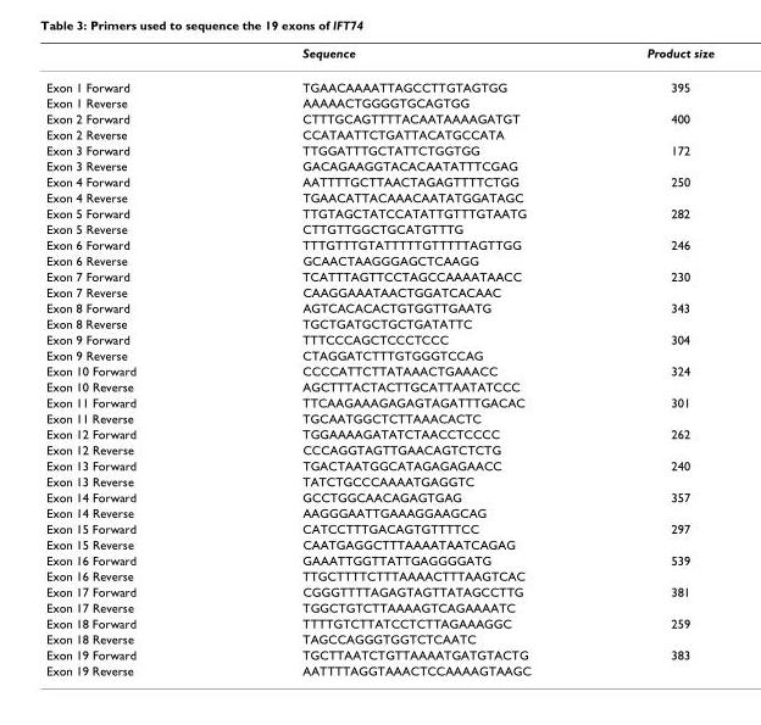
<table><thead><tr><td></td><td>Sequence</td><td>Product size</td></tr></thead><tbody><tr><td>Exon 1 Forward</td><td>TGAACAAAATTAGCCTTGTAGTGG</td><td>395</td></tr><tr><td>Exon 1 Reverse</td><td>AAAAACTGGGGTGCAGTGG</td><td></td></tr><tr><td>Exon 2 Forward</td><td>CTTTGCAGTTTTACAATAAAAGATGT</td><td>400</td></tr><tr><td>Exon 2 Reverse</td><td>CCATAATTCTGATTACATGCCATA</td><td></td></tr><tr><td>Exon 3 Forward</td><td>TTGGATTTGCTATTCTGGTGG</td><td>172</td></tr><tr><td>Exon 3 Reverse</td><td>GACAGAAGGTACACAATATTTCGAG</td><td></td></tr><tr><td>Exon 4 Forward</td><td>AATTTTGCTTAACTAGAGTTTTCTGG</td><td>250</td></tr><tr><td>Exon 4 Reverse</td><td>TGAACATTACAAACAATATGGATAGC</td><td></td></tr><tr><td>Exon 5 Forward</td><td>TTGTAGCTATCCATATTGTTTGTAATG</td><td>282</td></tr><tr><td>Exon 5 Reverse</td><td>CTTGTTGGCTGCATGTTTG</td><td></td></tr><tr><td>Exon 6 Forward</td><td>TTTGTTTGTATTTTTGTTTTTAGTTGG</td><td>246</td></tr><tr><td>Exon 6 Reverse</td><td>GCAACTAAGGGAGCTCAAGG</td><td></td></tr><tr><td>Exon 7 Forward</td><td>TCATTTAGTTCCTAGCCAAAATAACC</td><td>230</td></tr><tr><td>Exon 7 Reverse</td><td>CAAGGAAATAACTGGATCACAAC</td><td></td></tr><tr><td>Exon 8 Forward</td><td>AGTCACACACTGTGGTTGAATG</td><td>343</td></tr><tr><td>Exon 8 Reverse</td><td>TGCTGATGCTGCTGATATTC</td><td></td></tr><tr><td>Exon 9 Forward</td><td>TTTCCCAGCTCCCTCCC</td><td>304</td></tr><tr><td>Exon 9 Reverse</td><td>CTAGGATCTTTGTGGGTCCAG</td><td></td></tr><tr><td>Exon 10 Forward</td><td>CCCCATTCTTATAAACTGAAACC</td><td>324</td></tr><tr><td>Exon 10 Reverse</td><td>AGCTTTACTACTTGCATTAATATCCC</td><td></td></tr><tr><td>Exon 11 Forward</td><td>TTCAAGAAAGAGAGTAGATTTGACAC</td><td>301</td></tr><tr><td>Exon 11 Reverse</td><td>TGCAATGGCTCTTAAACACTC</td><td></td></tr><tr><td>Exon 12 Forward</td><td>TGGAAAAGATATCTAACCTCCCC</td><td>262</td></tr><tr><td>Exon 12 Reverse</td><td>CCCAGGTAGTTGAACAGTCTCTG</td><td></td></tr><tr><td>Exon 13 Forward</td><td>TGACTAATGGCATAGAGAGAACC</td><td>240</td></tr><tr><td>Exon 13 Reverse</td><td>TATCTGCCCAAAATGAGGTC</td><td></td></tr><tr><td>Exon 14 Forward</td><td>GCCTGGCAACAGAGTGAG</td><td>357</td></tr><tr><td>Exon 14 Reverse</td><td>AAGGGAATTGAAAGGAAGCAG</td><td></td></tr><tr><td>Exon 15 Forward</td><td>CATCCTTTGACAGTGTTTTCC</td><td>297</td></tr><tr><td>Exon 15 Reverse</td><td>CAATGAGGCTTTAAAATAATCAGAG</td><td></td></tr><tr><td>Exon 16 Forward</td><td>GAAATTGGTTATTGAGGGGATG</td><td>539</td></tr><tr><td>Exon 16 Reverse</td><td>TTGCTTTTCTTTAAAACTTTAAGTCAC</td><td></td></tr><tr><td>Exon 17 Forward</td><td>CGGGTTTTAGAGTAGTTATAGCCTTG</td><td>381</td></tr><tr><td>Exon 17 Reverse</td><td>TGGCTGTCTTAAAAGTCAGAAAATC</td><td></td></tr><tr><td>Exon 18 Forward</td><td>TTTTGTCTTATCCTCTTAGAAAGGC</td><td>259</td></tr><tr><td>Exon 18 Reverse</td><td>TAGCCAGGGTGGTCTCAATC</td><td></td></tr><tr><td>Exon 19 Forward</td><td>TGCTTAATCTGTTAAAATGATGTACTG</td><td>383</td></tr><tr><td>Exon 19 Reverse</td><td>AATTTTAGGTAAACTCCAAAAGTAAGC</td><td></td></tr></tbody></table>